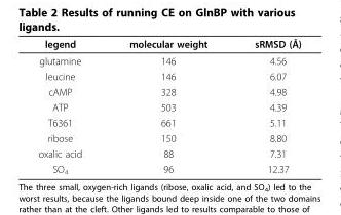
<table><thead><tr><td>legend</td><td>molecular weight</td><td>sRMSD (Å)</td></tr></thead><tbody><tr><td>glutamine</td><td>146</td><td>4.56</td></tr><tr><td>leucine</td><td>146</td><td>6.07</td></tr><tr><td>cAMP</td><td>328</td><td>4.98</td></tr><tr><td>ATP</td><td>503</td><td>4.39</td></tr><tr><td>T6361</td><td>661</td><td>5.11</td></tr><tr><td>ribose</td><td>150</td><td>8.80</td></tr><tr><td>oxalic acid</td><td>88</td><td>7.31</td></tr><tr><td>SO<sub>4</sub></td><td>96</td><td>12.37</td></tr></tbody></table>